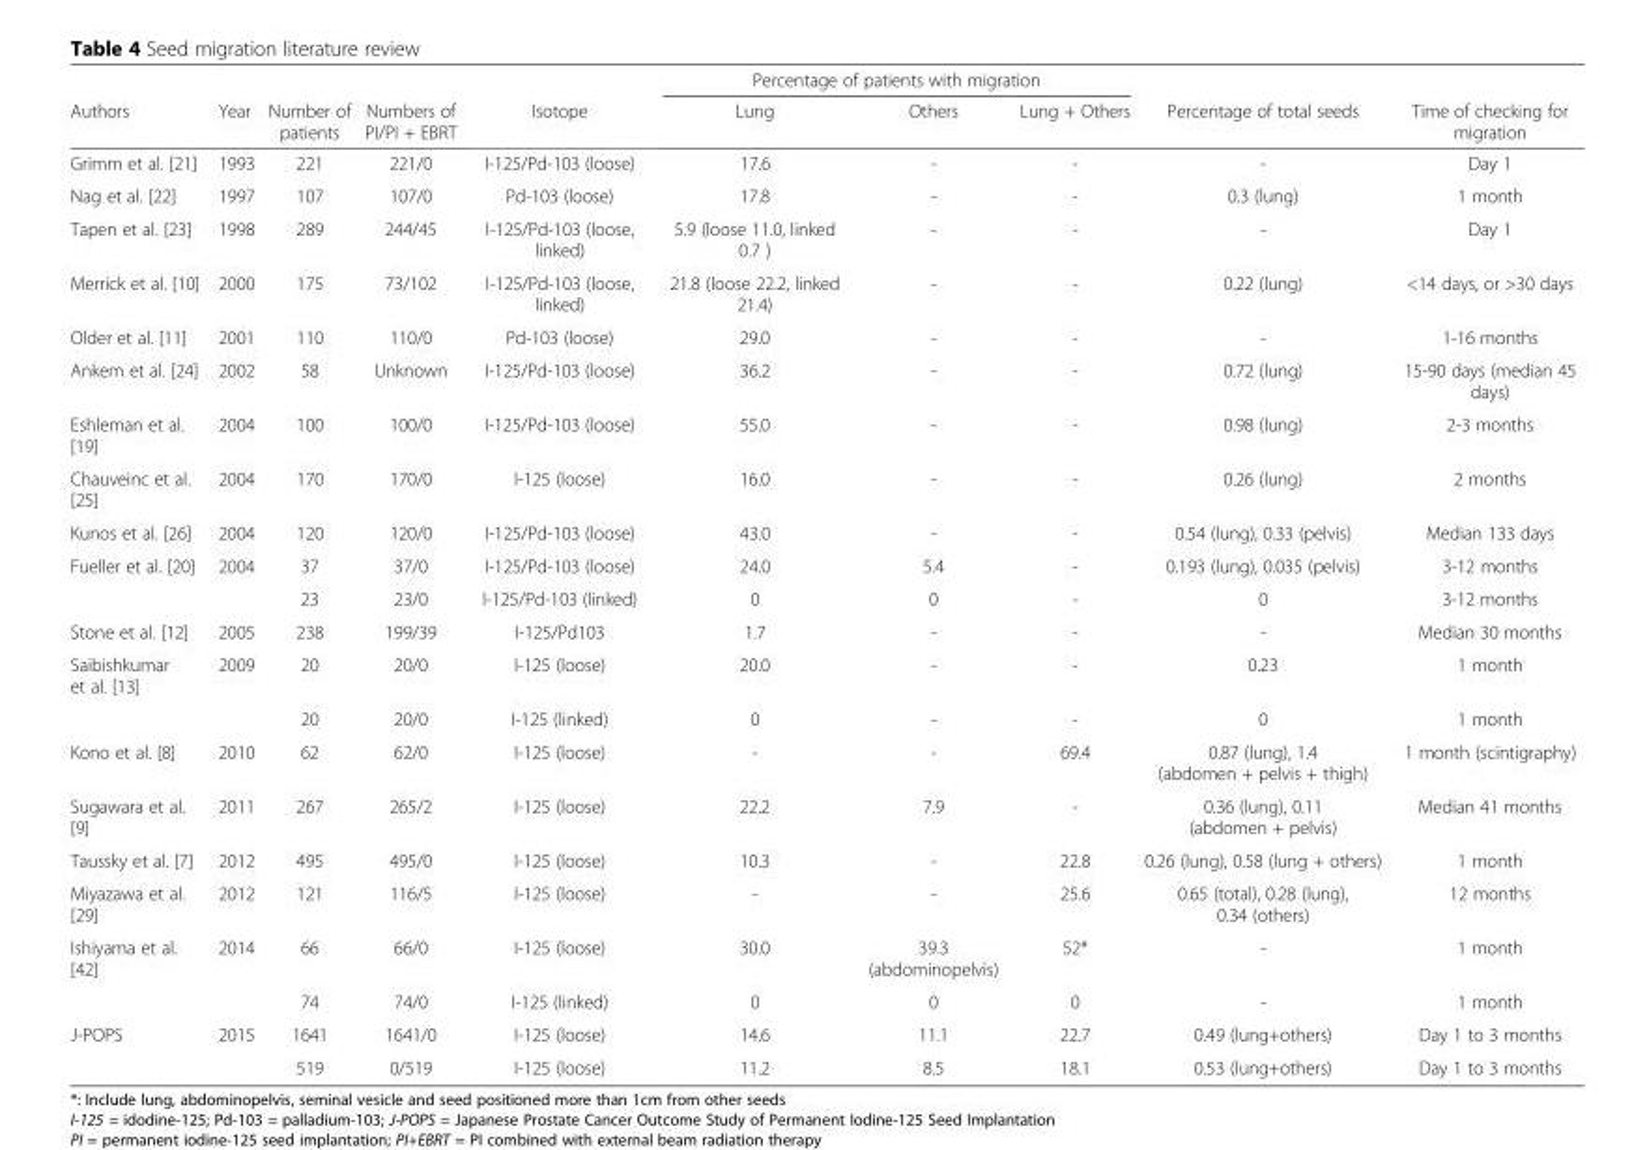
<table><thead><tr><td rowspan="2">Authors</td><td rowspan="2">Year</td><td rowspan="2">Number of patients</td><td rowspan="2">Numbers of PI/PI + EBRT</td><td rowspan="2">Isotope</td><td colspan="3">Percentage of patients with migration</td><td rowspan="2">Percentage of total seeds</td><td rowspan="2">Time of checking for migration</td></tr><tr><td>Lung</td><td>Others</td><td>Lung + Others</td></tr></thead><tbody><tr><td>Grimm et al. [21]</td><td>1993</td><td>221</td><td>221/0</td><td>I-125/Pd-103 (loose)</td><td>17.6</td><td>-</td><td>-</td><td>-</td><td>Day 1</td></tr><tr><td>Nag et al. [22]</td><td>1997</td><td>107</td><td>107/0</td><td>Pd-103 (loose)</td><td>17.8</td><td>-</td><td>-</td><td>0.3 (lung)</td><td>1 month</td></tr><tr><td>Tapen et al. [23]</td><td>1998</td><td>289</td><td>244/45</td><td>I-125/Pd-103 (loose, linked)</td><td>5.9 (loose 11.0, linked 0.7 )</td><td>-</td><td>-</td><td>-</td><td>Day 1</td></tr><tr><td>Merrick et al. [10]</td><td>2000</td><td>175</td><td>73/102</td><td>I-125/Pd-103 (loose, linked)</td><td>21.8 (loose 22.2, linked 21.4)</td><td>-</td><td>-</td><td>0.22 (lung)</td><td>&lt;14 days, or &gt;30 days</td></tr><tr><td>Older et al. [11]</td><td>2001</td><td>110</td><td>110/0</td><td>Pd-103 (loose)</td><td>29.0</td><td>-</td><td>-</td><td>-</td><td>1-16 months</td></tr><tr><td>Ankem et al. [24]</td><td>2002</td><td>58</td><td>Unknown</td><td>I-125/Pd-103 (loose)</td><td>36.2</td><td>-</td><td>-</td><td>0.72 (lung)</td><td>15-90 days (median 45 days)</td></tr><tr><td>Eshleman et al. [19]</td><td>2004</td><td>100</td><td>100/0</td><td>I-125/Pd-103 (loose)</td><td>55.0</td><td>-</td><td>-</td><td>0.98 (lung)</td><td>2-3 months</td></tr><tr><td>Chauveinc et al. [25]</td><td>2004</td><td>170</td><td>170/0</td><td>I-125 (loose)</td><td>16.0</td><td>-</td><td>-</td><td>0.26 (lung)</td><td>2 months</td></tr><tr><td>Kunos et al. [26]</td><td>2004</td><td>120</td><td>120/0</td><td>I-125/Pd-103 (loose)</td><td>43.0</td><td>-</td><td>-</td><td>0.54 (lung), 0.33 (pelvis)</td><td>Median 133 days</td></tr><tr><td rowspan="2">Fueller et al. [20]</td><td>2004</td><td>37</td><td>37/0</td><td>I-125/Pd-103 (loose)</td><td>24.0</td><td>5.4</td><td>-</td><td>0.193 (lung), 0.035 (pelvis)</td><td>3-12 months</td></tr><tr><td></td><td>23</td><td>23/0</td><td>I-125/Pd-103 (linked)</td><td>0</td><td>0</td><td>-</td><td>0</td><td>3-12 months</td></tr><tr><td>Stone et al. [12]</td><td>2005</td><td>238</td><td>199/39</td><td>I-125/Pd103</td><td>1.7</td><td>-</td><td>-</td><td>-</td><td>Median 30 months</td></tr><tr><td rowspan="2">Saibishkumar et al. [13]</td><td>2009</td><td>20</td><td>20/0</td><td>I-125 (loose)</td><td>20.0</td><td>-</td><td>-</td><td>0.23</td><td>1 month</td></tr><tr><td></td><td>20</td><td>20/0</td><td>I-125 (linked)</td><td>0</td><td>-</td><td>-</td><td>0</td><td>1 month</td></tr><tr><td>Kono et al. [8]</td><td>2010</td><td>62</td><td>62/0</td><td>I-125 (loose)</td><td>-</td><td>-</td><td>69.4</td><td>0.87 (lung), 1.4 (abdomen + pelvis + thigh)</td><td>1 month (scintigraphy)</td></tr><tr><td>Sugawara et al. [9]</td><td>2011</td><td>267</td><td>265/2</td><td>I-125 (loose)</td><td>22.2</td><td>7.9</td><td>-</td><td>0.36 (lung), 0.11 (abdomen + pelvis)</td><td>Median 41 months</td></tr><tr><td>Taussky et al. [7]</td><td>2012</td><td>495</td><td>495/0</td><td>I-125 (loose)</td><td>10.3</td><td>-</td><td>22.8</td><td>0.26 (lung), 0.58 (lung + others)</td><td>1 month</td></tr><tr><td>Miyazawa et al. [29]</td><td>2012</td><td>121</td><td>116/5</td><td>I-125 (loose)</td><td>-</td><td>-</td><td>25.6</td><td>0.65 (total), 0.28 (lung), 0.34 (others)</td><td>12 months</td></tr><tr><td rowspan="2">Ishiyama et al. [42]</td><td>2014</td><td>66</td><td>66/0</td><td>I-125 (loose)</td><td>30.0</td><td>39.3 (abdominopelvis)</td><td>52*</td><td>-</td><td>1 month</td></tr><tr><td></td><td>74</td><td>74/0</td><td>I-125 (linked)</td><td>0</td><td>0</td><td>0</td><td>-</td><td>1 month</td></tr><tr><td rowspan="2">J-POPS</td><td>2015</td><td>1641</td><td>1641/0</td><td>I-125 (loose)</td><td>14.6</td><td>11.1</td><td>22.7</td><td>0.49 (lung+others)</td><td>Day 1 to 3 months</td></tr><tr><td></td><td>519</td><td>0/519</td><td>I-125 (loose)</td><td>11.2</td><td>8.5</td><td>18.1</td><td>0.53 (lung+others)</td><td>Day 1 to 3 months</td></tr></tbody></table>